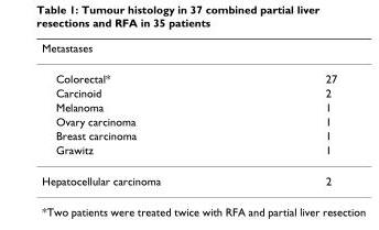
<table><thead><tr><td>Metastases</td><td></td></tr></thead><tbody><tr><td>Colorectal*</td><td>27</td></tr><tr><td>Carcinoid</td><td>2</td></tr><tr><td>Melanoma</td><td>1</td></tr><tr><td>Ovary carcinoma</td><td>1</td></tr><tr><td>Breast carcinoma</td><td>1</td></tr><tr><td>Grawitz</td><td>1</td></tr><tr><td>Hepatocellular carcinoma</td><td>2</td></tr></tbody></table>